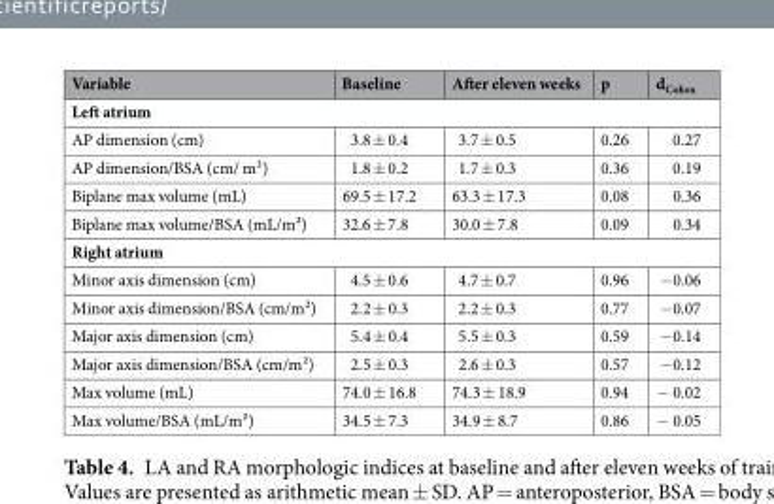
<table><thead><tr><td>Variable</td><td>Baseline</td><td>After eleven weeks</td><td>p</td><td>d<sub>Cohen</sub></td></tr></thead><tbody><tr><td colspan="5">Left atrium</td></tr><tr><td>AP dimension (cm)</td><td>3.8 ± 0.4</td><td>3.7 ± 0.5</td><td>0.26</td><td>0.27</td></tr><tr><td>AP dimension/BSA (cm/ m²)</td><td>1.8 ± 0.2</td><td>1.7 ± 0.3</td><td>0.36</td><td>0.19</td></tr><tr><td>Biplane max volume (mL)</td><td>69.5 ± 17.2</td><td>63.3 ± 17.3</td><td>0.08</td><td>0.36</td></tr><tr><td>Biplane max volume/BSA (mL/m²)</td><td>32.6 ± 7.8</td><td>30.0 ± 7.8</td><td>0.09</td><td>0.34</td></tr><tr><td colspan="5">Right atrium</td></tr><tr><td>Minor axis dimension (cm)</td><td>4.5 ± 0.6</td><td>4.7 ± 0.7</td><td>0.96</td><td>−0.06</td></tr><tr><td>Minor axis dimension/BSA (cm/m²)</td><td>2.2 ± 0.3</td><td>2.2 ± 0.3</td><td>0.77</td><td>−0.07</td></tr><tr><td>Major axis dimension (cm)</td><td>5.4 ± 0.4</td><td>5.5 ± 0.3</td><td>0.59</td><td>−0.14</td></tr><tr><td>Major axis dimension/BSA (cm/m²)</td><td>2.5 ± 0.3</td><td>2.6 ± 0.3</td><td>0.57</td><td>−0.12</td></tr><tr><td>Max volume (mL)</td><td>74.0 ± 16.8</td><td>74.3 ± 18.9</td><td>0.94</td><td>− 0.02</td></tr><tr><td>Max volume/BSA (mL/m²)</td><td>34.5 ± 7.3</td><td>34.9 ± 8.7</td><td>0.86</td><td>− 0.05</td></tr></tbody></table>